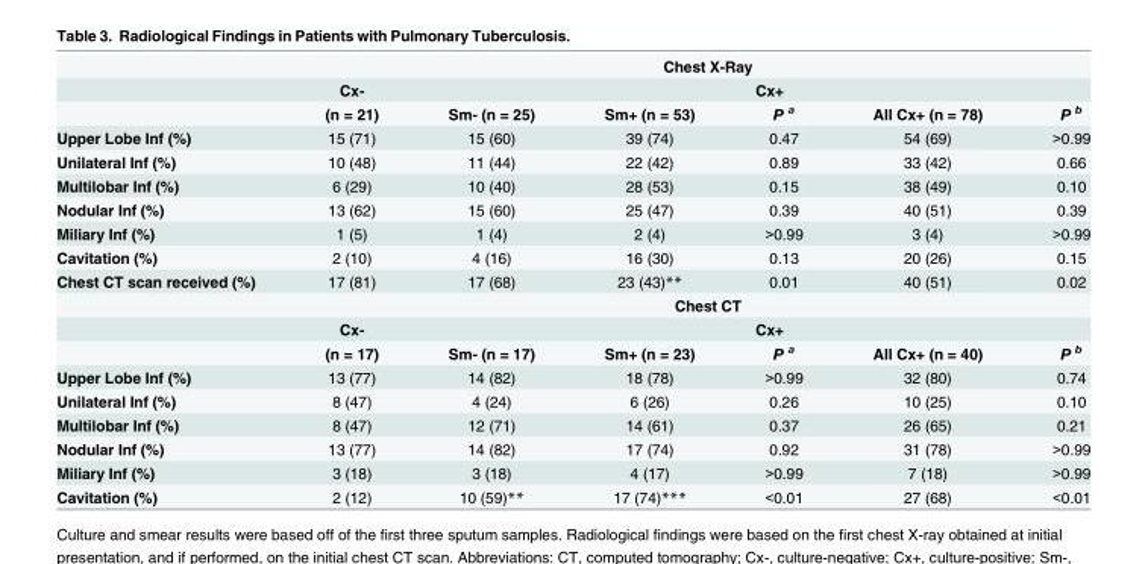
<table><thead><tr><td rowspan="3"></td><td colspan="6">Chest X-Ray</td></tr><tr><td rowspan="2">Cx- (n = 21)</td><td colspan="5">Cx+</td></tr><tr><td>Sm- (n = 25)</td><td>Sm+ (n = 53)</td><td>P <sup>a</sup></td><td>All Cx+ (n = 78)</td><td>P <sup>b</sup></td></tr></thead><tbody><tr><td>Upper Lobe Inf (%)</td><td>15 (71)</td><td>15 (60)</td><td>39 (74)</td><td>0.47</td><td>54 (69)</td><td>&gt;0.99</td></tr><tr><td>Unilateral Inf (%)</td><td>10 (48)</td><td>11 (44)</td><td>22 (42)</td><td>0.89</td><td>33 (42)</td><td>0.66</td></tr><tr><td>Multilobar Inf (%)</td><td>6 (29)</td><td>10 (40)</td><td>28 (53)</td><td>0.15</td><td>38 (49)</td><td>0.10</td></tr><tr><td>Nodular Inf (%)</td><td>13 (62)</td><td>15 (60)</td><td>25 (47)</td><td>0.39</td><td>40 (51)</td><td>0.39</td></tr><tr><td>Miliary Inf (%)</td><td>1 (5)</td><td>1 (4)</td><td>2 (4)</td><td>&gt;0.99</td><td>3 (4)</td><td>&gt;0.99</td></tr><tr><td>Cavitation (%)</td><td>2 (10)</td><td>4 (16)</td><td>16 (30)</td><td>0.13</td><td>20 (26)</td><td>0.15</td></tr><tr><td rowspan="4">Chest CT scan received (%)</td><td>17 (81)</td><td>17 (68)</td><td>23 (43)**</td><td>0.01</td><td>40 (51)</td><td>0.02</td></tr><tr><td colspan="6">Chest CT</td></tr><tr><td>Cx-</td><td colspan="5">Cx+</td></tr><tr><td>(n = 17)</td><td>Sm- (n = 17)</td><td>Sm+ (n = 23)</td><td>P <sup>a</sup></td><td>All Cx+ (n = 40)</td><td>P <sup>b</sup></td></tr><tr><td>Upper Lobe Inf (%)</td><td>13 (77)</td><td>14 (82)</td><td>18 (78)</td><td>&gt;0.99</td><td>32 (80)</td><td>0.74</td></tr><tr><td>Unilateral Inf (%)</td><td>8 (47)</td><td>4 (24)</td><td>6 (26)</td><td>0.26</td><td>10 (25)</td><td>0.10</td></tr><tr><td>Multilobar Inf (%)</td><td>8 (47)</td><td>12 (71)</td><td>14 (61)</td><td>0.37</td><td>26 (65)</td><td>0.21</td></tr><tr><td>Nodular Inf (%)</td><td>13 (77)</td><td>14 (82)</td><td>17 (74)</td><td>0.92</td><td>31 (78)</td><td>&gt;0.99</td></tr><tr><td>Miliary Inf (%)</td><td>3 (18)</td><td>3 (18)</td><td>4 (17)</td><td>&gt;0.99</td><td>7 (18)</td><td>&gt;0.99</td></tr><tr><td>Cavitation (%)</td><td>2 (12)</td><td>10 (59)**</td><td>17 (74)***</td><td>&lt;0.01</td><td>27 (68)</td><td>&lt;0.01</td></tr></tbody></table>